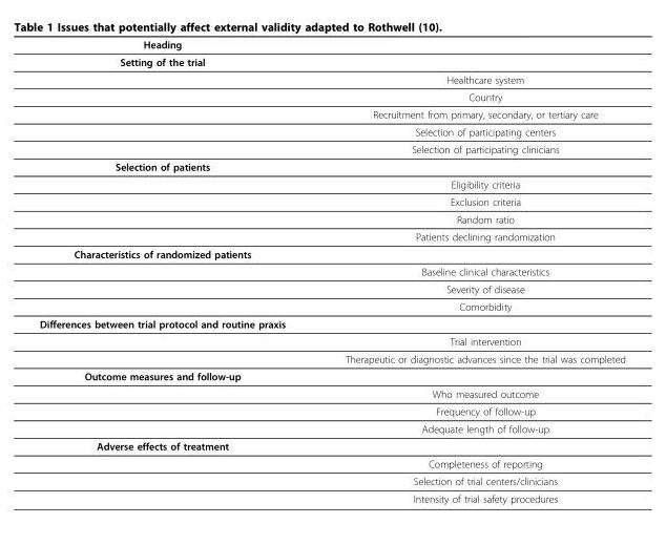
<table><thead><tr><td>Heading</td><td></td></tr></thead><tbody><tr><td colspan="2">Setting of the trial</td></tr><tr><td></td><td>Healthcare system</td></tr><tr><td></td><td>Country</td></tr><tr><td></td><td>Recruitment from primary, secondary, or tertiary care</td></tr><tr><td></td><td>Selection of participating centers</td></tr><tr><td></td><td>Selection of participating clinicians</td></tr><tr><td colspan="2">Selection of patients</td></tr><tr><td></td><td>Eligibility criteria</td></tr><tr><td></td><td>Exclusion criteria</td></tr><tr><td></td><td>Random ratio</td></tr><tr><td></td><td>Patients declining randomization</td></tr><tr><td colspan="2">Characteristics of randomized patients</td></tr><tr><td></td><td>Baseline clinical characteristics</td></tr><tr><td></td><td>Severity of disease</td></tr><tr><td></td><td>Comorbidity</td></tr><tr><td colspan="2">Differences between trial protocol and routine praxis</td></tr><tr><td></td><td>Trial intervention</td></tr><tr><td></td><td>Therapeutic or diagnostic advances since the trial was completed</td></tr><tr><td colspan="2">Outcome measures and follow-up</td></tr><tr><td></td><td>Who measured outcome</td></tr><tr><td></td><td>Frequency of follow-up</td></tr><tr><td></td><td>Adequate length of follow-up</td></tr><tr><td colspan="2">Adverse effects of treatment</td></tr><tr><td></td><td>Completeness of reporting</td></tr><tr><td></td><td>Selection of trial centers/clinicians</td></tr><tr><td></td><td>Intensity of trial safety procedures</td></tr></tbody></table>